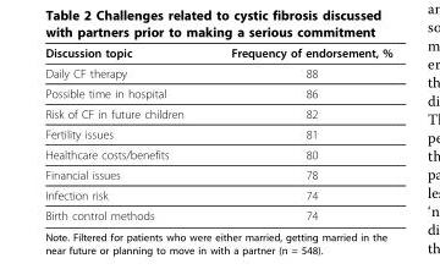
<table><thead><tr><td>Discussion topic</td><td>Frequency of endorsement, %</td></tr></thead><tbody><tr><td>Daily CF therapy</td><td>88</td></tr><tr><td>Possible time in hospital</td><td>86</td></tr><tr><td>Risk of CF in future children</td><td>82</td></tr><tr><td>Fertility issues</td><td>81</td></tr><tr><td>Healthcare costs/benefits</td><td>80</td></tr><tr><td>Financial issues</td><td>78</td></tr><tr><td>Infection risk</td><td>74</td></tr><tr><td>Birth control methods</td><td>74</td></tr></tbody></table>